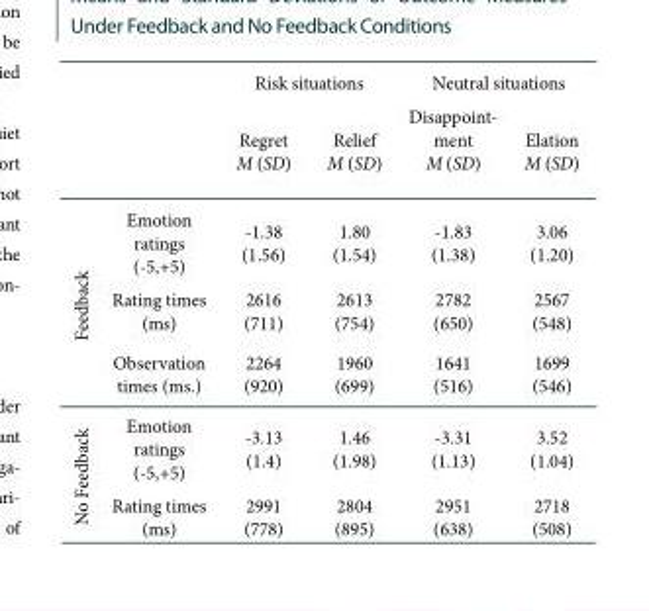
<table><thead><tr><td rowspan="2"></td><td rowspan="2"></td><td colspan="2">Risk situations</td><td colspan="2">Neutral situations</td></tr><tr><td>Regret M (SD)</td><td>Relief M (SD)</td><td>Disappoint- ment M (SD)</td><td>Elation M (SD)</td></tr></thead><tbody><tr><td rowspan="3">Feedback</td><td>Emotion ratings (-5,+5)</td><td>-1.38 (1.56)</td><td>1.80 (1.54)</td><td>-1.83 (1.38)</td><td>3.06 (1.20)</td></tr><tr><td>Rating times (ms)</td><td>2616 (711)</td><td>2613 (754)</td><td>2782 (650)</td><td>2567 (548)</td></tr><tr><td>Observation times (ms.)</td><td>2264 (920)</td><td>1960 (699)</td><td>1641 (516)</td><td>1699 (546)</td></tr><tr><td rowspan="2">No Feedback</td><td>Emotion ratings (-5,+5)</td><td>-3.13 (1.4)</td><td>1.46 (1.98)</td><td>-3.31 (1.13)</td><td>3.52 (1.04)</td></tr><tr><td>Rating times (ms)</td><td>2991 (778)</td><td>2804 (895)</td><td>2951 (638)</td><td>2718 (508)</td></tr></tbody></table>